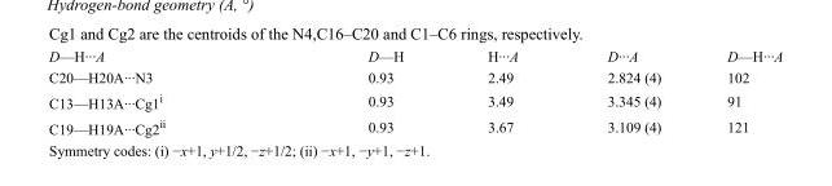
<table><tbody><tr><td>D—H···A</td><td>D—H</td><td>H···A</td><td>D···A</td><td>D—H···A</td></tr><tr><td>C20—H20A···N3</td><td>0.93</td><td>2.49</td><td>2.824 (4)</td><td>102</td></tr><tr><td>C13—H13A···Cg1<sup>i</sup></td><td>0.93</td><td>3.49</td><td>3.345 (4)</td><td>91</td></tr><tr><td>C19—H19A···Cg2<sup>ii</sup></td><td>0.93</td><td>3.67</td><td>3.109 (4)</td><td>121</td></tr></tbody></table>